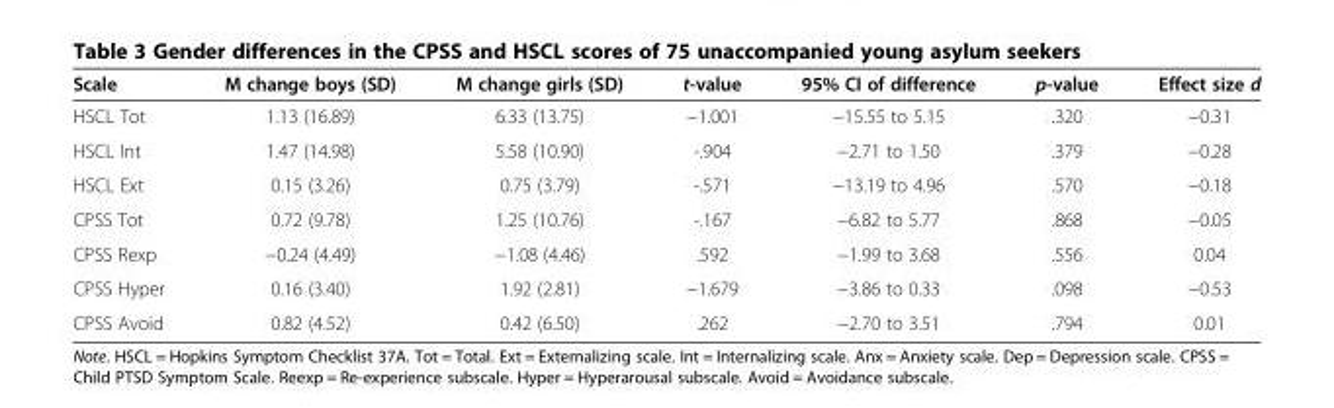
<table><thead><tr><td>Scale</td><td>M change boys (SD)</td><td>M change girls (SD)</td><td>t-value</td><td>95% CI of difference</td><td>p-value</td><td>Effect size d</td></tr></thead><tbody><tr><td>HSCL Tot</td><td>1.13 (16.89)</td><td>6.33 (13.75)</td><td>−1.001</td><td>−15.55 to 5.15</td><td>.320</td><td>−0.31</td></tr><tr><td>HSCL Int</td><td>1.47 (14.98)</td><td>5.58 (10.90)</td><td>-.904</td><td>−2.71 to 1.50</td><td>.379</td><td>−0.28</td></tr><tr><td>HSCL Ext</td><td>0.15 (3.26)</td><td>0.75 (3.79)</td><td>-.571</td><td>−13.19 to 4.96</td><td>.570</td><td>−0.18</td></tr><tr><td>CPSS Tot</td><td>0.72 (9.78)</td><td>1.25 (10.76)</td><td>-.167</td><td>−6.82 to 5.77</td><td>.868</td><td>−0.05</td></tr><tr><td>CPSS Rexp</td><td>−0.24 (4.49)</td><td>−1.08 (4.46)</td><td>.592</td><td>−1.99 to 3.68</td><td>.556</td><td>0.04</td></tr><tr><td>CPSS Hyper</td><td>0.16 (3.40)</td><td>1.92 (2.81)</td><td>−1.679</td><td>−3.86 to 0.33</td><td>.098</td><td>−0.53</td></tr><tr><td>CPSS Avoid</td><td>0.82 (4.52)</td><td>0.42 (6.50)</td><td>.262</td><td>−2.70 to 3.51</td><td>.794</td><td>0.01</td></tr></tbody></table>